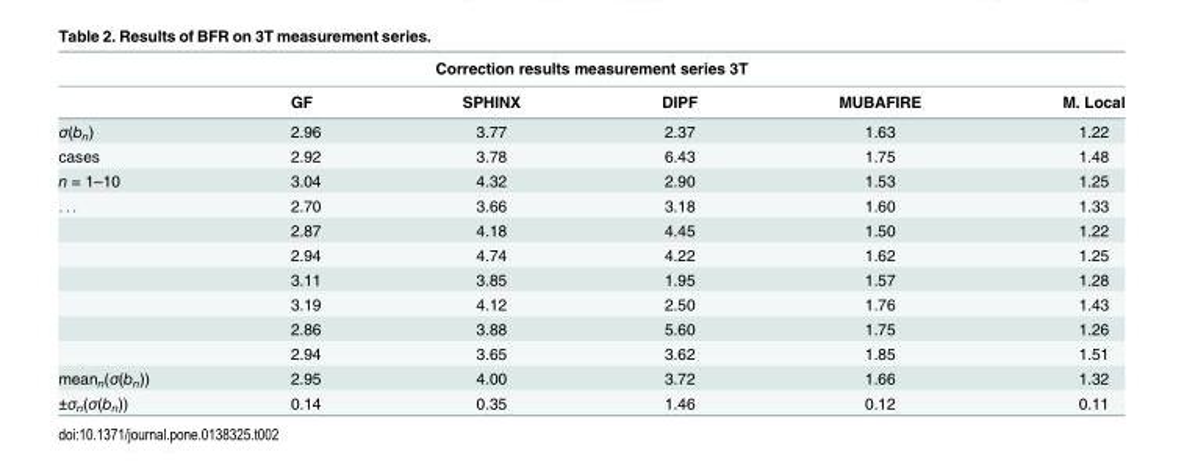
<table><thead><tr><td colspan="6">Correction results measurement series 3T</td></tr><tr><td></td><td>GF</td><td>SPHINX</td><td>DIPF</td><td>MUBAFIRE</td><td>M. Local</td></tr></thead><tbody><tr><td>σ(b<sub>n</sub>)</td><td>2.96</td><td>3.77</td><td>2.37</td><td>1.63</td><td>1.22</td></tr><tr><td>cases</td><td>2.92</td><td>3.78</td><td>6.43</td><td>1.75</td><td>1.48</td></tr><tr><td>n = 1–10</td><td>3.04</td><td>4.32</td><td>2.90</td><td>1.53</td><td>1.25</td></tr><tr><td rowspan="7">. . .</td><td>2.70</td><td>3.66</td><td>3.18</td><td>1.60</td><td>1.33</td></tr><tr><td>2.87</td><td>4.18</td><td>4.45</td><td>1.50</td><td>1.22</td></tr><tr><td>2.94</td><td>4.74</td><td>4.22</td><td>1.62</td><td>1.25</td></tr><tr><td>3.11</td><td>3.85</td><td>1.95</td><td>1.57</td><td>1.28</td></tr><tr><td>3.19</td><td>4.12</td><td>2.50</td><td>1.76</td><td>1.43</td></tr><tr><td>2.86</td><td>3.88</td><td>5.60</td><td>1.75</td><td>1.26</td></tr><tr><td>2.94</td><td>3.65</td><td>3.62</td><td>1.85</td><td>1.51</td></tr><tr><td>mean<sub>n</sub>(σ(b<sub>n</sub>))</td><td>2.95</td><td>4.00</td><td>3.72</td><td>1.66</td><td>1.32</td></tr><tr><td>±σ<sub>n</sub>(σ(b<sub>n</sub>))</td><td>0.14</td><td>0.35</td><td>1.46</td><td>0.12</td><td>0.11</td></tr></tbody></table>